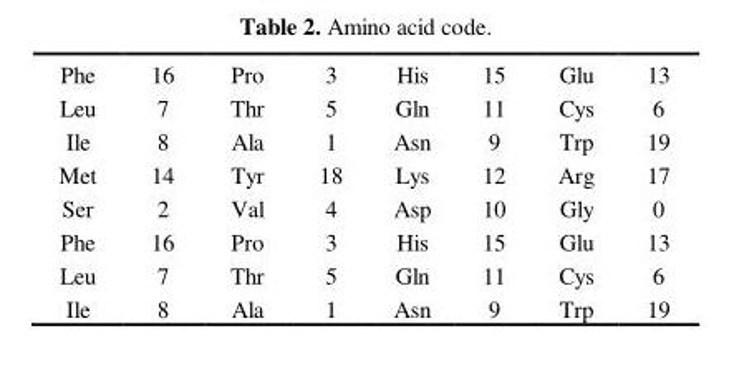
<table><tbody><tr><td>Phe</td><td>16</td><td>Pro</td><td>3</td><td>His</td><td>15</td><td>Glu</td><td>13</td></tr><tr><td>Leu</td><td>7</td><td>Thr</td><td>5</td><td>Gln</td><td>11</td><td>Cys</td><td>6</td></tr><tr><td>Ile</td><td>8</td><td>Ala</td><td>1</td><td>Asn</td><td>9</td><td>Trp</td><td>19</td></tr><tr><td>Met</td><td>14</td><td>Tyr</td><td>18</td><td>Lys</td><td>12</td><td>Arg</td><td>17</td></tr><tr><td>Ser</td><td>2</td><td>Val</td><td>4</td><td>Asp</td><td>10</td><td>Gly</td><td>0</td></tr><tr><td>Phe</td><td>16</td><td>Pro</td><td>3</td><td>His</td><td>15</td><td>Glu</td><td>13</td></tr><tr><td>Leu</td><td>7</td><td>Thr</td><td>5</td><td>Gln</td><td>11</td><td>Cys</td><td>6</td></tr><tr><td>Ile</td><td>8</td><td>Ala</td><td>1</td><td>Asn</td><td>9</td><td>Trp</td><td>19</td></tr></tbody></table>